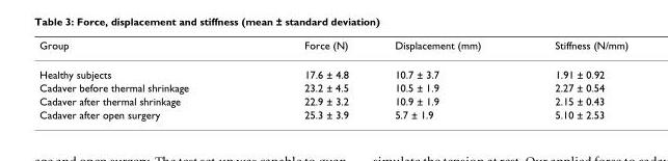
<table><thead><tr><td>Group</td><td>Force (N)</td><td>Displacement (mm)</td><td>Stiffness (N/mm)</td></tr></thead><tbody><tr><td>Healthy subjects</td><td>17.6 ± 4.8</td><td>10.7 ± 3.7</td><td>1.91 ± 0.92</td></tr><tr><td>Cadaver before thermal shrinkage</td><td>23.2 ± 4.5</td><td>10.5 ± 1.9</td><td>2.27 ± 0.54</td></tr><tr><td>Cadaver after thermal shrinkage</td><td>22.9 ± 3.2</td><td>10.9 ± 1.9</td><td>2.15 ± 0.43</td></tr><tr><td>Cadaver after open surgery</td><td>25.3 ± 3.9</td><td>5.7 ± 1.9</td><td>5.10 ± 2.53</td></tr></tbody></table>